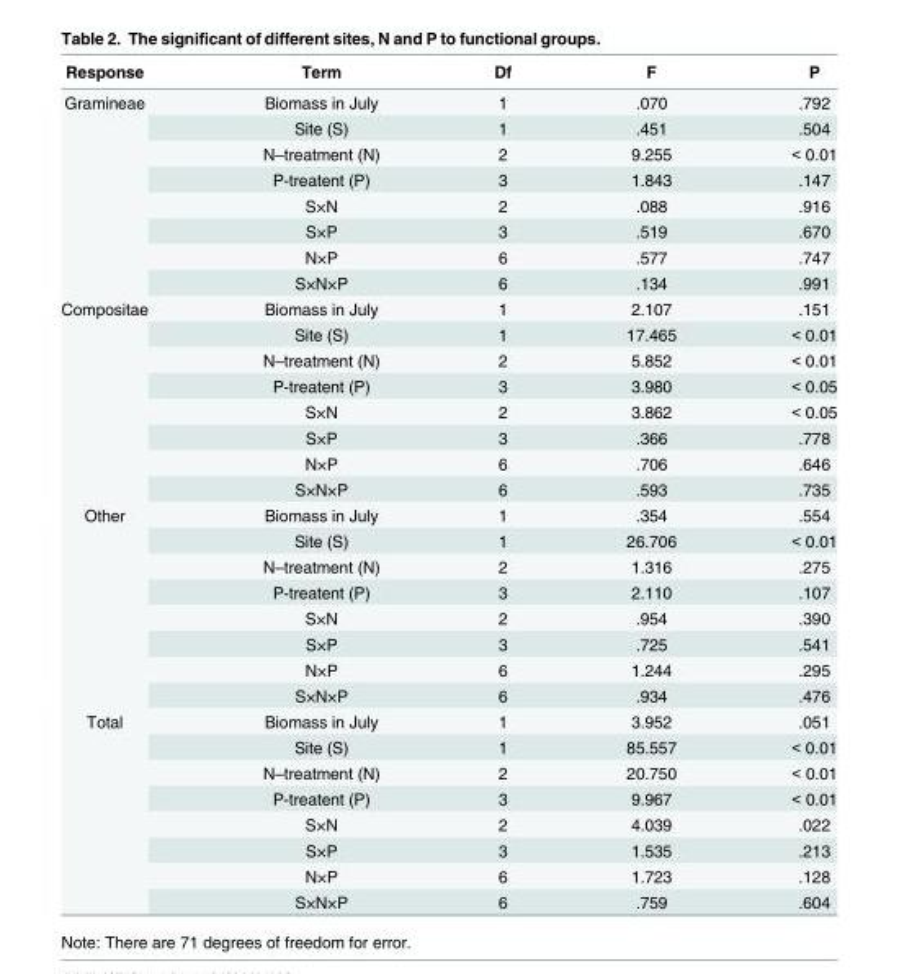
<table><thead><tr><td>Response</td><td>Term</td><td>Df</td><td>F</td><td>P</td></tr></thead><tbody><tr><td rowspan="8">Gramineae</td><td>Biomass in July</td><td>1</td><td>.070</td><td>.792</td></tr><tr><td>Site (S)</td><td>1</td><td>.451</td><td>.504</td></tr><tr><td>N–treatment (N)</td><td>2</td><td>9.255</td><td>&lt; 0.01</td></tr><tr><td>P-treatent (P)</td><td>3</td><td>1.843</td><td>.147</td></tr><tr><td>S×N</td><td>2</td><td>.088</td><td>.916</td></tr><tr><td>S×P</td><td>3</td><td>.519</td><td>.670</td></tr><tr><td>N×P</td><td>6</td><td>.577</td><td>.747</td></tr><tr><td>S×N×P</td><td>6</td><td>.134</td><td>.991</td></tr><tr><td rowspan="8">Compositae</td><td>Biomass in July</td><td>1</td><td>2.107</td><td>.151</td></tr><tr><td>Site (S)</td><td>1</td><td>17.465</td><td>&lt; 0.01</td></tr><tr><td>N–treatment (N)</td><td>2</td><td>5.852</td><td>&lt; 0.01</td></tr><tr><td>P-treatent (P)</td><td>3</td><td>3.980</td><td>&lt; 0.05</td></tr><tr><td>S×N</td><td>2</td><td>3.862</td><td>&lt; 0.05</td></tr><tr><td>S×P</td><td>3</td><td>.366</td><td>.778</td></tr><tr><td>N×P</td><td>6</td><td>.706</td><td>.646</td></tr><tr><td>S×N×P</td><td>6</td><td>.593</td><td>.735</td></tr><tr><td rowspan="8">Other</td><td>Biomass in July</td><td>1</td><td>.354</td><td>.554</td></tr><tr><td>Site (S)</td><td>1</td><td>26.706</td><td>&lt; 0.01</td></tr><tr><td>N–treatment (N)</td><td>2</td><td>1.316</td><td>.275</td></tr><tr><td>P-treatent (P)</td><td>3</td><td>2.110</td><td>.107</td></tr><tr><td>S×N</td><td>2</td><td>.954</td><td>.390</td></tr><tr><td>S×P</td><td>3</td><td>.725</td><td>.541</td></tr><tr><td>N×P</td><td>6</td><td>1.244</td><td>.295</td></tr><tr><td>S×N×P</td><td>6</td><td>.934</td><td>.476</td></tr><tr><td rowspan="8">Total</td><td>Biomass in July</td><td>1</td><td>3.952</td><td>.051</td></tr><tr><td>Site (S)</td><td>1</td><td>85.557</td><td>&lt; 0.01</td></tr><tr><td>N–treatment (N)</td><td>2</td><td>20.750</td><td>&lt; 0.01</td></tr><tr><td>P-treatent (P)</td><td>3</td><td>9.967</td><td>&lt; 0.01</td></tr><tr><td>S×N</td><td>2</td><td>4.039</td><td>.022</td></tr><tr><td>S×P</td><td>3</td><td>1.535</td><td>.213</td></tr><tr><td>N×P</td><td>6</td><td>1.723</td><td>.128</td></tr><tr><td>S×N×P</td><td>6</td><td>.759</td><td>.604</td></tr></tbody></table>